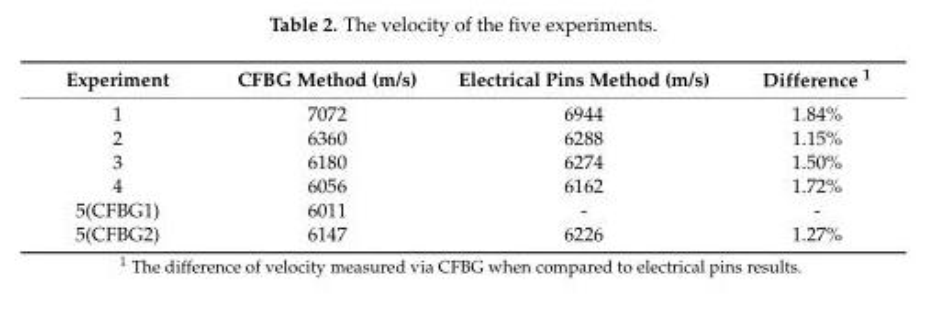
<table><thead><tr><td>Experiment</td><td>CFBG Method (m/s)</td><td>Electrical Pins Method (m/s)</td><td>Difference <sup>1</sup></td></tr></thead><tbody><tr><td>1</td><td>7072</td><td>6944</td><td>1.84%</td></tr><tr><td>2</td><td>6360</td><td>6288</td><td>1.15%</td></tr><tr><td>3</td><td>6180</td><td>6274</td><td>1.50%</td></tr><tr><td>4</td><td>6056</td><td>6162</td><td>1.72%</td></tr><tr><td>5(CFBG1)</td><td>6011</td><td>-</td><td>-</td></tr><tr><td>5(CFBG2)</td><td>6147</td><td>6226</td><td>1.27%</td></tr></tbody></table>